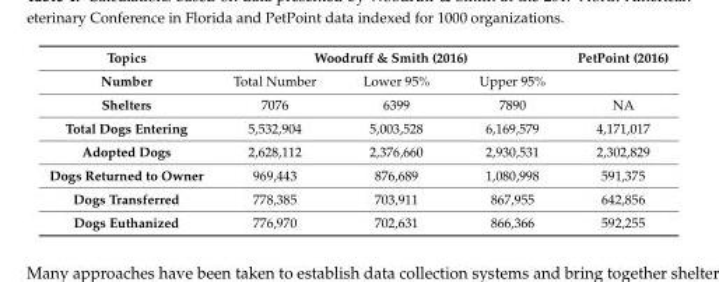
<table><thead><tr><td rowspan="2">Topics Number</td><td colspan="3">Woodruff &amp; Smith (2016)</td><td rowspan="2">PetPoint (2016)</td></tr><tr><td>Total Number</td><td>Lower 95%</td><td>Upper 95%</td></tr></thead><tbody><tr><td>Shelters</td><td>7076</td><td>6399</td><td>7890</td><td>NA</td></tr><tr><td>Total Dogs Entering</td><td>5,532,904</td><td>5,003,528</td><td>6,169,579</td><td>4,171,017</td></tr><tr><td>Adopted Dogs</td><td>2,628,112</td><td>2,376,660</td><td>2,930,531</td><td>2,302,829</td></tr><tr><td>Dogs Returned to Owner</td><td>969,443</td><td>876,689</td><td>1,080,998</td><td>591,375</td></tr><tr><td>Dogs Transferred</td><td>778,385</td><td>703,911</td><td>867,955</td><td>642,856</td></tr><tr><td>Dogs Euthanized</td><td>776,970</td><td>702,631</td><td>866,366</td><td>592,255</td></tr></tbody></table>